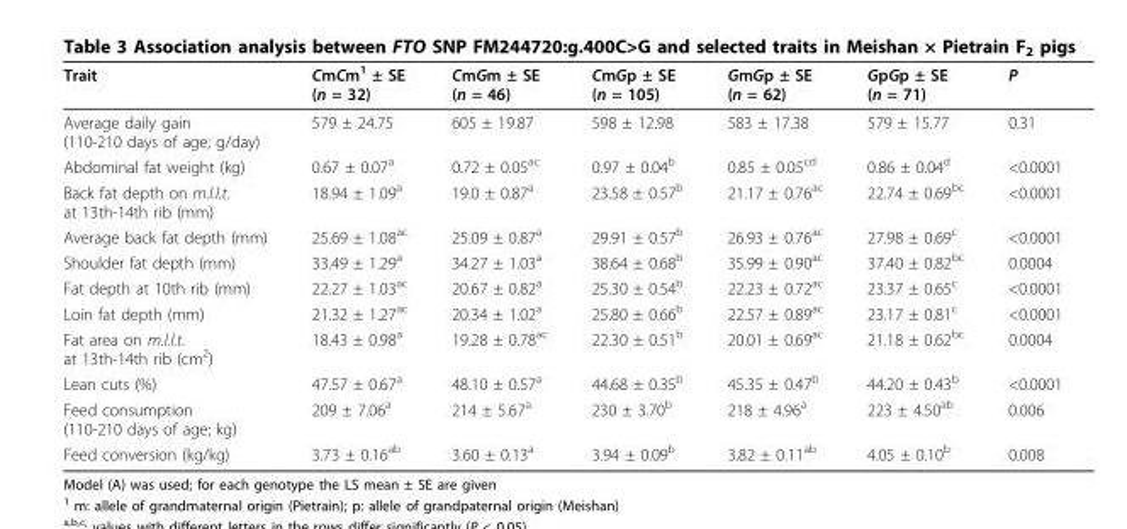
<table><thead><tr><td>Trait</td><td>CmCm<sup>1</sup> ± SE (n = 32)</td><td>CmGm ± SE (n = 46)</td><td>CmGp ± SE (n = 105)</td><td>GmGp ± SE (n = 62)</td><td>GpGp ± SE (n = 71)</td><td>P</td></tr></thead><tbody><tr><td>Average daily gain (110-210 days of age; g/day)</td><td>579 ± 24.75</td><td>605 ± 19.87</td><td>598 ± 12.98</td><td>583 ± 17.38</td><td>579 ± 15.77</td><td>0.31</td></tr><tr><td>Abdominal fat weight (kg)</td><td>0.67 ± 0.07<sup>a</sup></td><td>0.72 ± 0.05<sup>ac</sup></td><td>0.97 ± 0.04<sup>b</sup></td><td>0.85 ± 0.05<sup>cd</sup></td><td>0.86 ± 0.04<sup>d</sup></td><td>&lt;0.0001</td></tr><tr><td>Back fat depth on m.l.l.t. at 13th-14th rib (mm)</td><td>18.94 ± 1.09<sup>a</sup></td><td>19.0 ± 0.87<sup>a</sup></td><td>23.58 ± 0.57<sup>b</sup></td><td>21.17 ± 0.76<sup>ac</sup></td><td>22.74 ± 0.69<sup>bc</sup></td><td>&lt;0.0001</td></tr><tr><td>Average back fat depth (mm)</td><td>25.69 ± 1.08<sup>ac</sup></td><td>25.09 ± 0.87<sup>a</sup></td><td>29.91 ± 0.57<sup>b</sup></td><td>26.93 ± 0.76<sup>ac</sup></td><td>27.98 ± 0.69<sup>c</sup></td><td>&lt;0.0001</td></tr><tr><td>Shoulder fat depth (mm)</td><td>33.49 ± 1.29<sup>a</sup></td><td>34.27 ± 1.03<sup>a</sup></td><td>38.64 ± 0.68<sup>b</sup></td><td>35.99 ± 0.90<sup>ac</sup></td><td>37.40 ± 0.82<sup>bc</sup></td><td>0.0004</td></tr><tr><td>Fat depth at 10th rib (mm)</td><td>22.27 ± 1.03<sup>ac</sup></td><td>20.67 ± 0.82<sup>a</sup></td><td>25.30 ± 0.54<sup>b</sup></td><td>22.23 ± 0.72<sup>ac</sup></td><td>23.37 ± 0.65<sup>c</sup></td><td>&lt;0.0001</td></tr><tr><td>Loin fat depth (mm)</td><td>21.32 ± 1.27<sup>ac</sup></td><td>20.34 ± 1.02<sup>a</sup></td><td>25.80 ± 0.66<sup>b</sup></td><td>22.57 ± 0.89<sup>ac</sup></td><td>23.17 ± 0.81<sup>c</sup></td><td>&lt;0.0001</td></tr><tr><td>Fat area on m.l.l.t. at 13th-14th rib (cm<sup>2</sup>)</td><td>18.43 ± 0.98<sup>a</sup></td><td>19.28 ± 0.78<sup>ac</sup></td><td>22.30 ± 0.51<sup>b</sup></td><td>20.01 ± 0.69<sup>ac</sup></td><td>21.18 ± 0.62<sup>bc</sup></td><td>0.0004</td></tr><tr><td>Lean cuts (%)</td><td>47.57 ± 0.67<sup>a</sup></td><td>48.10 ± 0.57<sup>a</sup></td><td>44.68 ± 0.35<sup>b</sup></td><td>45.35 ± 0.47<sup>b</sup></td><td>44.20 ± 0.43<sup>b</sup></td><td>&lt;0.0001</td></tr><tr><td>Feed consumption (110-210 days of age; kg)</td><td>209 ± 7.06<sup>a</sup></td><td>214 ± 5.67<sup>a</sup></td><td>230 ± 3.70<sup>b</sup></td><td>218 ± 4.96<sup>a</sup></td><td>223 ± 4.50<sup>ab</sup></td><td>0.006</td></tr><tr><td>Feed conversion (kg/kg)</td><td>3.73 ± 0.16<sup>ab</sup></td><td>3.60 ± 0.13<sup>a</sup></td><td>3.94 ± 0.09<sup>b</sup></td><td>3.82 ± 0.11<sup>ab</sup></td><td>4.05 ± 0.10<sup>b</sup></td><td>0.008</td></tr></tbody></table>